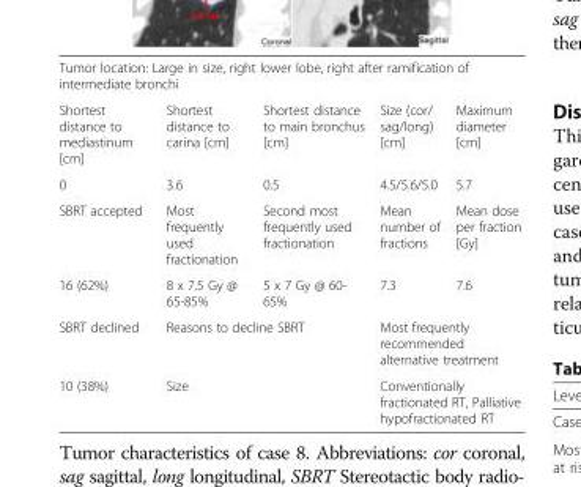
<table><tbody><tr><td colspan="5">Tumor location: Large in size, right lower lobe, right after ramification of intermediate bronchi</td></tr><tr><td>Shortest distance to mediastinum [cm]</td><td>Shortest distance to carina [cm]</td><td>Shortest distance to main bronchus [cm]</td><td>Size (cor/ sag/long) [cm]</td><td>Maximum diameter [cm]</td></tr><tr><td>0</td><td>3.6</td><td>0.5</td><td>4.5/5.6/5.0</td><td>5.7</td></tr><tr><td>SBRT accepted</td><td>Most frequently used fractionation</td><td>Second most frequently used fractionation</td><td>Mean number of fractions</td><td>Mean dose per fraction [Gy]</td></tr><tr><td>16 (62%)</td><td>8 x 7.5 Gy @ 65-85%</td><td>5 x 7 Gy @ 60- 65%</td><td>7.3</td><td>7.6</td></tr><tr><td>SBRT declined</td><td colspan="2">Reasons to decline SBRT</td><td colspan="2">Most frequently recommended alternative treatment</td></tr><tr><td>10 (38%)</td><td colspan="2">Size</td><td colspan="2">Conventionally fractionated RT, Palliative hypofractionated RT</td></tr></tbody></table>